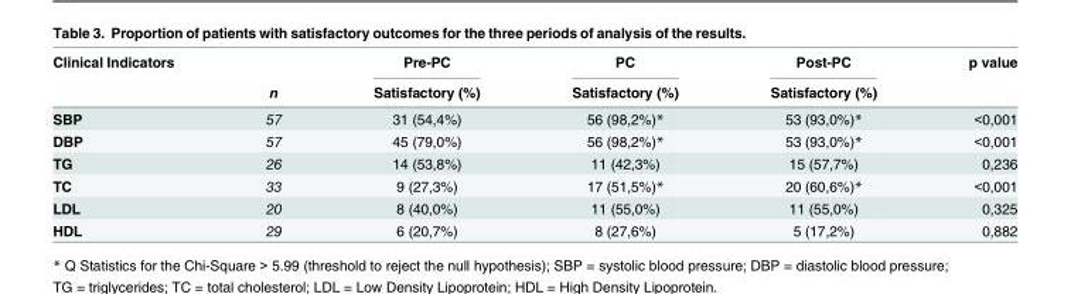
<table><thead><tr><td rowspan="2">Clinical Indicators</td><td rowspan="2">n</td><td rowspan="2">Pre-PC Satisfactory (%)</td><td rowspan="2">PC Satisfactory (%)</td><td rowspan="2">Post-PC Satisfactory (%)</td><td rowspan="2">p value</td></tr><tr></tr></thead><tbody><tr><td>SBP</td><td>57</td><td>31 (54,4%)</td><td>56 (98,2%)*</td><td>53 (93,0%)*</td><td>&lt;0,001</td></tr><tr><td>DBP</td><td>57</td><td>45 (79,0%)</td><td>56 (98,2%)*</td><td>53 (93,0%)*</td><td>&lt;0,001</td></tr><tr><td>TG</td><td>26</td><td>14 (53,8%)</td><td>11 (42,3%)</td><td>15 (57,7%)</td><td>0,236</td></tr><tr><td>TC</td><td>33</td><td>9 (27,3%)</td><td>17 (51,5%)*</td><td>20 (60,6%)*</td><td>&lt;0,001</td></tr><tr><td>LDL</td><td>20</td><td>8 (40,0%)</td><td>11 (55,0%)</td><td>11 (55,0%)</td><td>0,325</td></tr><tr><td>HDL</td><td>29</td><td>6 (20,7%)</td><td>8 (27,6%)</td><td>5 (17,2%)</td><td>0,882</td></tr></tbody></table>